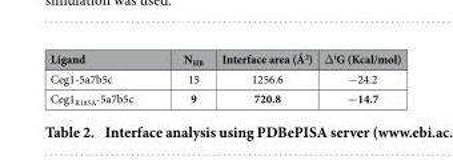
<table><thead><tr><td>Ligand</td><td>N<sub>HB</sub></td><td>Interface area (Å<sup>2</sup>)</td><td>Δ <sup>i</sup>G (Kcal/mol)</td></tr></thead><tbody><tr><td>Ceg1-5a7b5c</td><td>15</td><td>1256.6</td><td>− 24.2</td></tr><tr><td>Ceg1<sub>R185A</sub>-5a7b5c</td><td>9</td><td>720.8</td><td>−14.7</td></tr></tbody></table>